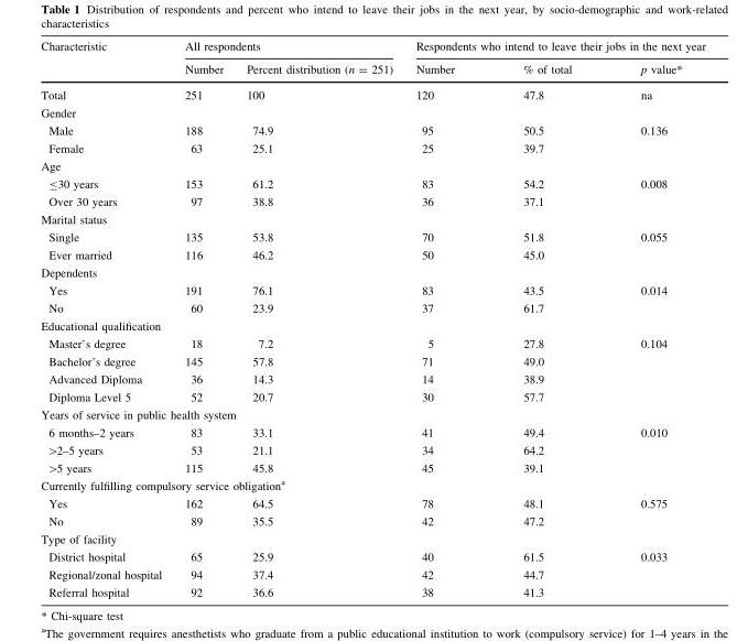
<table><thead><tr><td rowspan="2">Characteristic</td><td colspan="2">All respondents</td><td colspan="3">Respondents who intend to leave their jobs in the next year</td></tr><tr><td>Number</td><td>Percent distribution (n = 251)</td><td>Number</td><td>% of total</td><td>p value*</td></tr></thead><tbody><tr><td>Total</td><td>251</td><td>100</td><td>120</td><td>47.8</td><td>na</td></tr><tr><td colspan="6">Gender</td></tr><tr><td>Male</td><td>188</td><td>74.9</td><td>95</td><td>50.5</td><td>0.136</td></tr><tr><td>Female</td><td>63</td><td>25.1</td><td>25</td><td>39.7</td><td></td></tr><tr><td colspan="6">Age</td></tr><tr><td>≤30 years</td><td>153</td><td>61.2</td><td>83</td><td>54.2</td><td>0.008</td></tr><tr><td>Over 30 years</td><td>97</td><td>38.8</td><td>36</td><td>37.1</td><td></td></tr><tr><td colspan="6">Marital status</td></tr><tr><td>Single</td><td>135</td><td>53.8</td><td>70</td><td>51.8</td><td>0.055</td></tr><tr><td>Ever married</td><td>116</td><td>46.2</td><td>50</td><td>45.0</td><td></td></tr><tr><td colspan="6">Dependents</td></tr><tr><td>Yes</td><td>191</td><td>76.1</td><td>83</td><td>43.5</td><td>0.014</td></tr><tr><td>No</td><td>60</td><td>23.9</td><td>37</td><td>61.7</td><td></td></tr><tr><td colspan="6">Educational qualification</td></tr><tr><td>Master’s degree</td><td>18</td><td>7.2</td><td>5</td><td>27.8</td><td>0.104</td></tr><tr><td>Bachelor’s degree</td><td>145</td><td>57.8</td><td>71</td><td>49.0</td><td></td></tr><tr><td>Advanced Diploma</td><td>36</td><td>14.3</td><td>14</td><td>38.9</td><td></td></tr><tr><td>Diploma Level 5</td><td>52</td><td>20.7</td><td>30</td><td>57.7</td><td></td></tr><tr><td colspan="6">Years of service in public health system</td></tr><tr><td>6 months–2 years</td><td>83</td><td>33.1</td><td>41</td><td>49.4</td><td>0.010</td></tr><tr><td>&gt;2–5 years</td><td>53</td><td>21.1</td><td>34</td><td>64.2</td><td></td></tr><tr><td>&gt;5 years</td><td>115</td><td>45.8</td><td>45</td><td>39.1</td><td></td></tr><tr><td colspan="6">Currently fulfilling compulsory service obligation<sup>a</sup></td></tr><tr><td>Yes</td><td>162</td><td>64.5</td><td>78</td><td>48.1</td><td>0.575</td></tr><tr><td>No</td><td>89</td><td>35.5</td><td>42</td><td>47.2</td><td></td></tr><tr><td colspan="6">Type of facility</td></tr><tr><td>District hospital</td><td>65</td><td>25.9</td><td>40</td><td>61.5</td><td>0.033</td></tr><tr><td>Regional/zonal hospital</td><td>94</td><td>37.4</td><td>42</td><td>44.7</td><td></td></tr><tr><td>Referral hospital</td><td>92</td><td>36.6</td><td>38</td><td>41.3</td><td></td></tr></tbody></table>